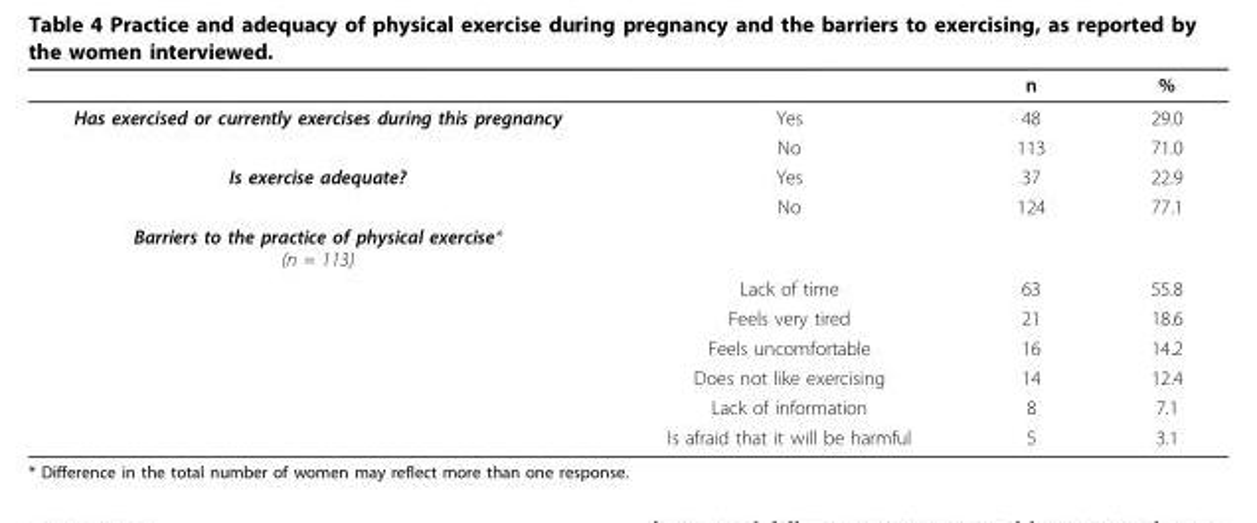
<table><thead><tr><td></td><td></td><td>n</td><td>%</td></tr></thead><tbody><tr><td rowspan="2">Has exercised or currently exercises during this pregnancy</td><td>Yes</td><td>48</td><td>29.0</td></tr><tr><td>No</td><td>113</td><td>71.0</td></tr><tr><td rowspan="2">Is exercise adequate?</td><td>Yes</td><td>37</td><td>22.9</td></tr><tr><td>No</td><td>124</td><td>77.1</td></tr><tr><td colspan="4">Barriers to the practice of physical exercise* (n = 113)</td></tr><tr><td></td><td>Lack of time</td><td>63</td><td>55.8</td></tr><tr><td></td><td>Feels very tired</td><td>21</td><td>18.6</td></tr><tr><td></td><td>Feels uncomfortable</td><td>16</td><td>14.2</td></tr><tr><td></td><td>Does not like exercising</td><td>14</td><td>12.4</td></tr><tr><td></td><td>Lack of information</td><td>8</td><td>7.1</td></tr><tr><td></td><td>Is afraid that it will be harmful</td><td>5</td><td>3.1</td></tr></tbody></table>